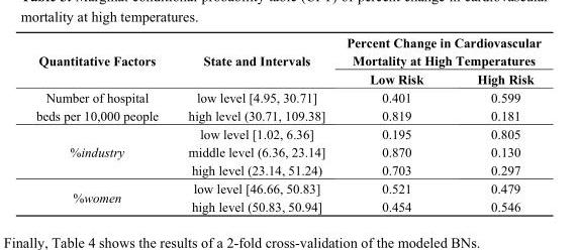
<table><thead><tr><td rowspan="2">Quantitative Factors</td><td rowspan="2">State and Intervals</td><td colspan="2">Percent Change in Cardiovascular Mortality at High Temperatures</td></tr><tr><td>Low Risk</td><td>High Risk</td></tr></thead><tbody><tr><td rowspan="2">Number of hospital beds per 10,000 people</td><td>low level [4.95, 30.71]</td><td>0.401</td><td>0.599</td></tr><tr><td>high level (30.71, 109.38]</td><td>0.819</td><td>0.181</td></tr><tr><td rowspan="3">%industry</td><td>low level [1.02, 6.36]</td><td>0.195</td><td>0.805</td></tr><tr><td>middle level (6.36, 23.14]</td><td>0.870</td><td>0.130</td></tr><tr><td>high level (23.14, 51.24)</td><td>0.703</td><td>0.297</td></tr><tr><td rowspan="2">%women</td><td>low level [46.66, 50.83]</td><td>0.521</td><td>0.479</td></tr><tr><td>high level (50.83, 50.94]</td><td>0.454</td><td>0.546</td></tr></tbody></table>